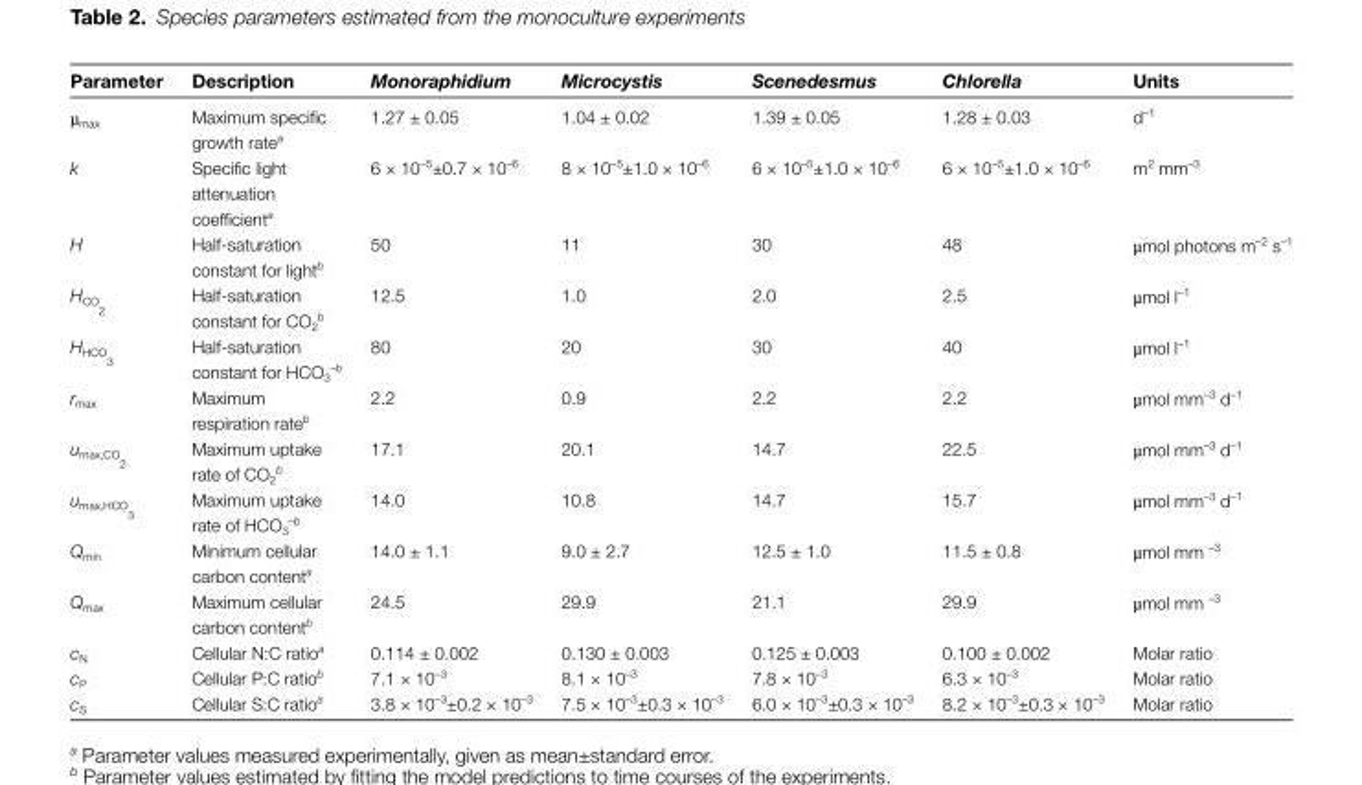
<table><thead><tr><td>Parameter</td><td>Description</td><td>Monoraphidium</td><td>Microcystis</td><td>Scenedesmus</td><td>Chlorella</td><td>Units</td></tr></thead><tbody><tr><td>µ<sub>max</sub></td><td>Maximum specific growth rate<sup>a</sup></td><td>1.27 ± 0.05</td><td>1.04 ± 0.02</td><td>1.39 ± 0.05</td><td>1.28 ± 0.03</td><td>d<sup>–1</sup></td></tr><tr><td>k</td><td>Specific light attenuation coefficient<sup>a</sup></td><td>6 × 10<sup>–5</sup>±0.7 × 10<sup>–6</sup></td><td>8 × 10<sup>–5</sup>±1.0 × 10<sup>–6</sup></td><td>6 × 10<sup>–5</sup>±1.0 × 10<sup>–6</sup></td><td>6 × 10<sup>–5</sup>±1.0 × 10<sup>–6</sup></td><td>m<sup>2</sup> mm<sup>–3</sup></td></tr><tr><td>H</td><td>Half-saturation constant for light<sup>b</sup></td><td>50</td><td>11</td><td>30</td><td>48</td><td>µmol photons m<sup>–2</sup> s<sup>–1</sup></td></tr><tr><td>H<sub>CO 2</sub></td><td>Half-saturation constant for CO<sub>2</sub> <sup>b</sup></td><td>12.5</td><td>1.0</td><td>2.0</td><td>2.5</td><td>µmol l<sup>–1</sup></td></tr><tr><td>H<sub>HCO 3</sub></td><td>Half-saturation constant for HCO<sub>3</sub> <sup>–b</sup></td><td>80</td><td>20</td><td>30</td><td>40</td><td>µmol l<sup>–1</sup></td></tr><tr><td>r<sub>max</sub></td><td>Maximum respiration rate<sup>b</sup></td><td>2.2</td><td>0.9</td><td>2.2</td><td>2.2</td><td>µmol mm<sup>–3</sup> d<sup>–1</sup></td></tr><tr><td>u<sub>max,CO 2</sub></td><td>Maximum uptake rate of CO<sub>2</sub> <sup>b</sup></td><td>17.1</td><td>20.1</td><td>14.7</td><td>22.5</td><td>µmol mm<sup>–3</sup> d<sup>–1</sup></td></tr><tr><td>u<sub>max,HCO 3</sub></td><td>Maximum uptake rate of HCO<sub>3</sub> <sup>–b</sup></td><td>14.0</td><td>10.8</td><td>14.7</td><td>15.7</td><td>µmol mm<sup>–3</sup> d<sup>–1</sup></td></tr><tr><td>Q<sub>min</sub></td><td>Minimum cellular carbon content<sup>a</sup></td><td>14.0 ± 1.1</td><td>9.0 ± 2.7</td><td>12.5 ± 1.0</td><td>11.5 ± 0.8</td><td>µmol mm <sup>–3</sup></td></tr><tr><td>Q<sub>max</sub></td><td>Maximum cellular carbon content<sup>b</sup></td><td>24.5</td><td>29.9</td><td>21.1</td><td>29.9</td><td>µmol mm <sup>–3</sup></td></tr><tr><td>c<sub>N</sub></td><td>Cellular N:C ratio<sup>a</sup></td><td>0.114 ± 0.002</td><td>0.130 ± 0.003</td><td>0.125 ± 0.003</td><td>0.100 ± 0.002</td><td>Molar ratio</td></tr><tr><td>c<sub>P</sub></td><td>Cellular P:C ratio<sup>b</sup></td><td>7.1 × 10<sup>–3</sup></td><td>8.1 × 10<sup>–3</sup></td><td>7.8 × 10<sup>–3</sup></td><td>6.3 × 10<sup>–3</sup></td><td>Molar ratio</td></tr><tr><td>c<sub>S</sub></td><td>Cellular S:C ratio<sup>a</sup></td><td>3.8 × 10<sup>–3</sup>±0.2 × 10<sup>–3</sup></td><td>7.5 × 10<sup>–3</sup>±0.3 × 10<sup>–3</sup></td><td>6.0 × 10<sup>–3</sup>±0.3 × 10<sup>–3</sup></td><td>8.2 × 10<sup>–3</sup>±0.3 × 10<sup>–3</sup></td><td>Molar ratio</td></tr></tbody></table>